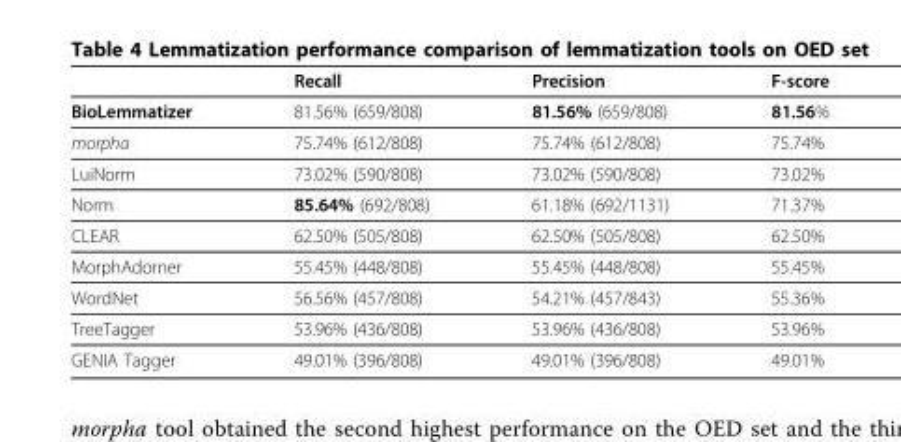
<table><thead><tr><td></td><td>Recall</td><td>Precision</td><td>F-score</td></tr></thead><tbody><tr><td>BioLemmatizer</td><td>81.56% (659/808)</td><td>81.56% (659/808)</td><td>81.56%</td></tr><tr><td>morpha</td><td>75.74% (612/808)</td><td>75.74% (612/808)</td><td>75.74%</td></tr><tr><td>LuiNorm</td><td>73.02% (590/808)</td><td>73.02% (590/808)</td><td>73.02%</td></tr><tr><td>Norm</td><td>85.64% (692/808)</td><td>61.18% (692/1131)</td><td>71.37%</td></tr><tr><td>CLEAR</td><td>62.50% (505/808)</td><td>62.50% (505/808)</td><td>62.50%</td></tr><tr><td>MorphAdorner</td><td>55.45% (448/808)</td><td>55.45% (448/808)</td><td>55.45%</td></tr><tr><td>WordNet</td><td>56.56% (457/808)</td><td>54.21% (457/843)</td><td>55.36%</td></tr><tr><td>TreeTagger</td><td>53.96% (436/808)</td><td>53.96% (436/808)</td><td>53.96%</td></tr><tr><td>GENIA Tagger</td><td>49.01% (396/808)</td><td>49.01% (396/808)</td><td>49.01%</td></tr></tbody></table>